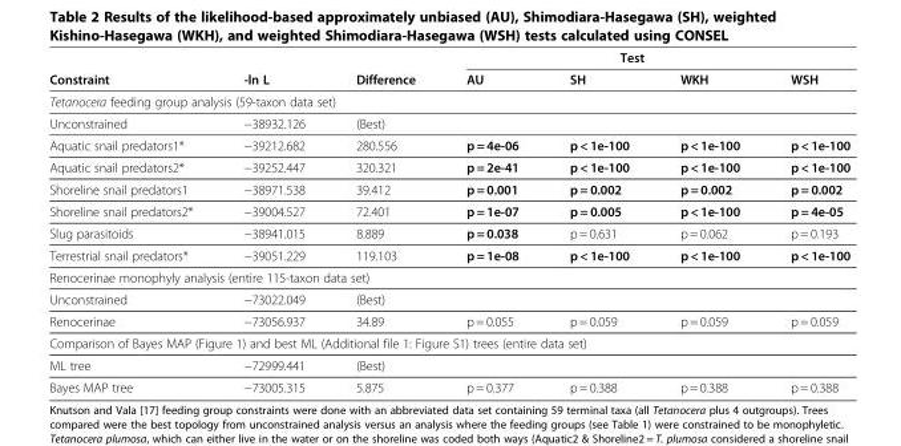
<table><thead><tr><td rowspan="2">Constraint</td><td rowspan="2">-ln L</td><td rowspan="2">Difference</td><td colspan="4">Test</td></tr><tr><td>AU</td><td>SH</td><td>WKH</td><td>WSH</td></tr></thead><tbody><tr><td colspan="7">Tetanocera feeding group analysis (59-taxon data set)</td></tr><tr><td>Unconstrained</td><td>−38932.126</td><td>(Best)</td><td></td><td></td><td></td><td></td></tr><tr><td>Aquatic snail predators1*</td><td>−39212.682</td><td>280.556</td><td>p = 4e-06</td><td>p &lt; 1e-100</td><td>p &lt; 1e-100</td><td>p &lt; 1e-100</td></tr><tr><td>Aquatic snail predators2*</td><td>−39252.447</td><td>320.321</td><td>p = 2e-41</td><td>p &lt; 1e-100</td><td>p &lt; 1e-100</td><td>p &lt; 1e-100</td></tr><tr><td>Shoreline snail predators1</td><td>−38971.538</td><td>39.412</td><td>p = 0.001</td><td>p = 0.002</td><td>p = 0.002</td><td>p = 0.002</td></tr><tr><td>Shoreline snail predators2*</td><td>−39004.527</td><td>72.401</td><td>p = 1e-07</td><td>p = 0.005</td><td>p &lt; 1e-100</td><td>p = 4e-05</td></tr><tr><td>Slug parasitoids</td><td>−38941.015</td><td>8.889</td><td>p = 0.038</td><td>p = 0.631</td><td>p = 0.062</td><td>p = 0.193</td></tr><tr><td>Terrestrial snail predators*</td><td>−39051.229</td><td>119.103</td><td>p = 1e-08</td><td>p &lt; 1e-100</td><td>p &lt; 1e-100</td><td>p &lt; 1e-100</td></tr><tr><td colspan="7">Renocerinae monophyly analysis (entire 115-taxon data set)</td></tr><tr><td>Unconstrained</td><td>−73022.049</td><td>(Best)</td><td></td><td></td><td></td><td></td></tr><tr><td>Renocerinae</td><td>−73056.937</td><td>34.89</td><td>p = 0.055</td><td>p = 0.059</td><td>p = 0.059</td><td>p = 0.059</td></tr><tr><td colspan="7">Comparison of Bayes MAP (Figure 1) and best ML (Additional file 1: Figure S1) trees (entire data set)</td></tr><tr><td>ML tree</td><td>−72999.441</td><td>(Best)</td><td></td><td></td><td></td><td></td></tr><tr><td>Bayes MAP tree</td><td>−73005.315</td><td>5.875</td><td>p = 0.377</td><td>p = 0.388</td><td>p = 0.388</td><td>p = 0.388</td></tr></tbody></table>